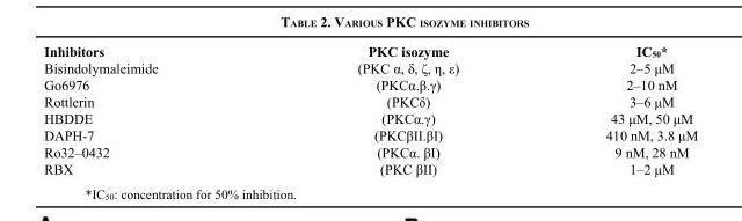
<table><thead><tr><td>Inhibitors</td><td>PKC isozyme</td><td>IC<sub>50</sub>*</td></tr></thead><tbody><tr><td>Bisindolymaleimide</td><td>(PKC α, δ, ζ, η, ε)</td><td>2–5 μM</td></tr><tr><td>Go6976</td><td>(PKCα.β.γ)</td><td>2–10 nM</td></tr><tr><td>Rottlerin</td><td>(PKCδ)</td><td>3–6 μM</td></tr><tr><td>HBDDE</td><td>(PKCα.γ)</td><td>43 μM, 50 μM</td></tr><tr><td>DAPH-7</td><td>(PKCβII.βI)</td><td>410 nM, 3.8 μM</td></tr><tr><td>Ro32–0432</td><td>(PKCα. βI)</td><td>9 nM, 28 nM</td></tr><tr><td>RBX</td><td>(PKC βII)</td><td>1–2 μM</td></tr></tbody></table>